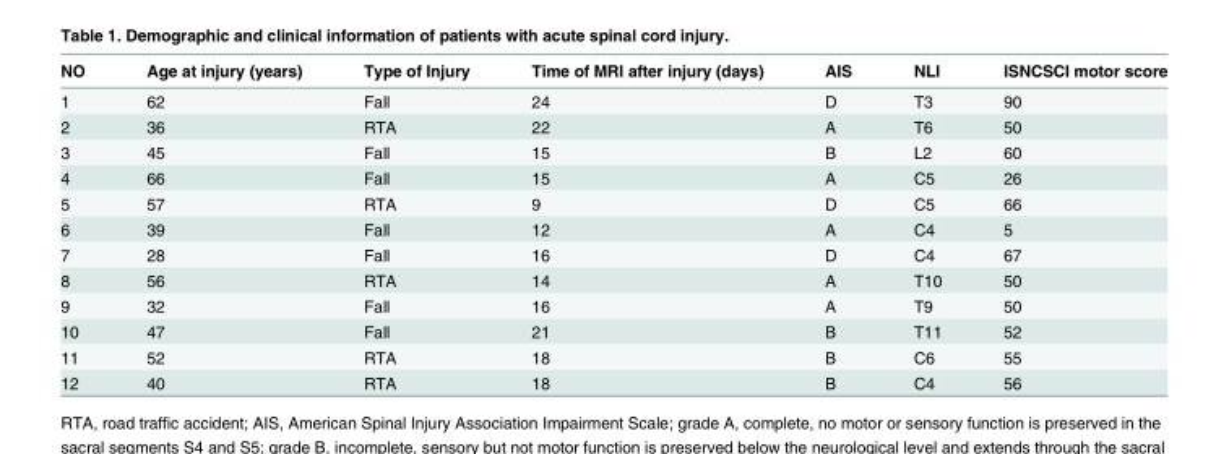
<table><thead><tr><td>NO</td><td>Age at injury (years)</td><td>Type of Injury</td><td>Time of MRI after injury (days)</td><td>AIS</td><td>NLI</td><td>ISNCSCI motor score</td></tr></thead><tbody><tr><td>1</td><td>62</td><td>Fall</td><td>24</td><td>D</td><td>T3</td><td>90</td></tr><tr><td>2</td><td>36</td><td>RTA</td><td>22</td><td>A</td><td>T6</td><td>50</td></tr><tr><td>3</td><td>45</td><td>Fall</td><td>15</td><td>B</td><td>L2</td><td>60</td></tr><tr><td>4</td><td>66</td><td>Fall</td><td>15</td><td>A</td><td>C5</td><td>26</td></tr><tr><td>5</td><td>57</td><td>RTA</td><td>9</td><td>D</td><td>C5</td><td>66</td></tr><tr><td>6</td><td>39</td><td>Fall</td><td>12</td><td>A</td><td>C4</td><td>5</td></tr><tr><td>7</td><td>28</td><td>Fall</td><td>16</td><td>D</td><td>C4</td><td>67</td></tr><tr><td>8</td><td>56</td><td>RTA</td><td>14</td><td>A</td><td>T10</td><td>50</td></tr><tr><td>9</td><td>32</td><td>Fall</td><td>16</td><td>A</td><td>T9</td><td>50</td></tr><tr><td>10</td><td>47</td><td>Fall</td><td>21</td><td>B</td><td>T11</td><td>52</td></tr><tr><td>11</td><td>52</td><td>RTA</td><td>18</td><td>B</td><td>C6</td><td>55</td></tr><tr><td>12</td><td>40</td><td>RTA</td><td>18</td><td>B</td><td>C4</td><td>56</td></tr></tbody></table>